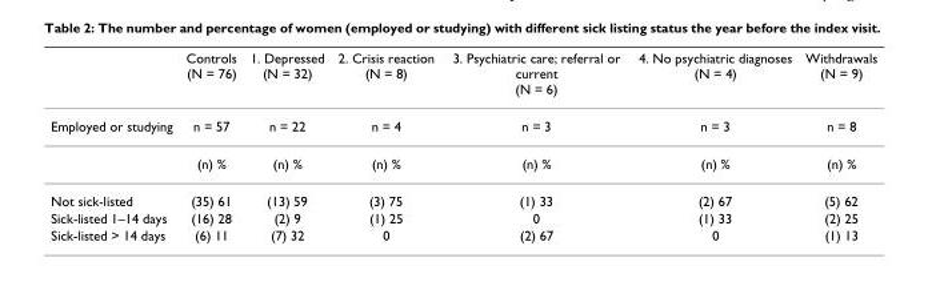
<table><thead><tr><td></td><td>Controls (N = 76)</td><td>1. Depressed (N = 32)</td><td>2. Crisis reaction (N = 8)</td><td>3. Psychiatric care; referral or current (N = 6)</td><td>4. No psychiatric diagnoses (N = 4)</td><td>Withdrawals (N = 9)</td></tr></thead><tbody><tr><td rowspan="2">Employed or studying</td><td>n = 57</td><td>n = 22</td><td>n = 4</td><td>n = 3</td><td>n = 3</td><td>n = 8</td></tr><tr><td>(n) %</td><td>(n) %</td><td>(n) %</td><td>(n) %</td><td>(n) %</td><td>(n) %</td></tr><tr><td>Not sick-listed</td><td>(35) 61</td><td>(13) 59</td><td>(3) 75</td><td>(1) 33</td><td>(2) 67</td><td>(5) 62</td></tr><tr><td>Sick-listed 1–14 days</td><td>(16) 28</td><td>(2) 9</td><td>(1) 25</td><td>0</td><td>(1) 33</td><td>(2) 25</td></tr><tr><td>Sick-listed &gt; 14 days</td><td>(6) 11</td><td>(7) 32</td><td>0</td><td>(2) 67</td><td>0</td><td>(1) 13</td></tr></tbody></table>